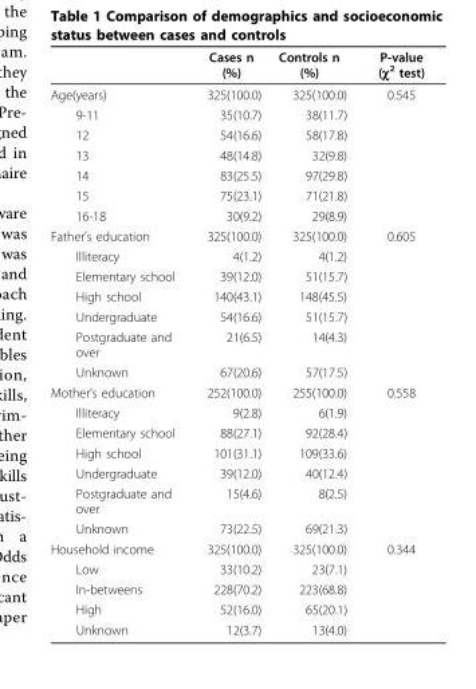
<table><thead><tr><td></td><td>Cases n (%)</td><td>Controls n (%)</td><td>P-value (χ<sup>2</sup> test)</td></tr></thead><tbody><tr><td>Age(years)</td><td>325(100.0)</td><td>325(100.0)</td><td>0.545</td></tr><tr><td>9-11</td><td>35(10.7)</td><td>38(11.7)</td><td></td></tr><tr><td>12</td><td>54(16.6)</td><td>58(17.8)</td><td></td></tr><tr><td>13</td><td>48(14.8)</td><td>32(9.8)</td><td></td></tr><tr><td>14</td><td>83(25.5)</td><td>97(29.8)</td><td></td></tr><tr><td>15</td><td>75(23.1)</td><td>71(21.8)</td><td></td></tr><tr><td>16-18</td><td>30(9.2)</td><td>29(8.9)</td><td></td></tr><tr><td>Father’s education</td><td>325(100.0)</td><td>325(100.0)</td><td>0.605</td></tr><tr><td>Illiteracy</td><td>4(1.2)</td><td>4(1.2)</td><td></td></tr><tr><td>Elementary school</td><td>39(12.0)</td><td>51(15.7)</td><td></td></tr><tr><td>High school</td><td>140(43.1)</td><td>148(45.5)</td><td></td></tr><tr><td>Undergraduate</td><td>54(16.6)</td><td>51(15.7)</td><td></td></tr><tr><td>Postgraduate and over</td><td>21(6.5)</td><td>14(4.3)</td><td></td></tr><tr><td>Unknown</td><td>67(20.6)</td><td>57(17.5)</td><td></td></tr><tr><td>Mother’s education</td><td>252(100.0)</td><td>255(100.0)</td><td>0.558</td></tr><tr><td>Illiteracy</td><td>9(2.8)</td><td>6(1.9)</td><td></td></tr><tr><td>Elementary school</td><td>88(27.1)</td><td>92(28.4)</td><td></td></tr><tr><td>High school</td><td>101(31.1)</td><td>109(33.6)</td><td></td></tr><tr><td>Undergraduate</td><td>39(12.0)</td><td>40(12.4)</td><td></td></tr><tr><td>Postgraduate and over</td><td>15(4.6)</td><td>8(2.5)</td><td></td></tr><tr><td>Unknown</td><td>73(22.5)</td><td>69(21.3)</td><td></td></tr><tr><td>Household income</td><td>325(100.0)</td><td>325(100.0)</td><td>0.344</td></tr><tr><td>Low</td><td>33(10.2)</td><td>23(7.1)</td><td></td></tr><tr><td>In-betweens</td><td>228(70.2)</td><td>223(68.8)</td><td></td></tr><tr><td>High</td><td>52(16.0)</td><td>65(20.1)</td><td></td></tr><tr><td>Unknown</td><td>12(3.7)</td><td>13(4.0)</td><td></td></tr></tbody></table>